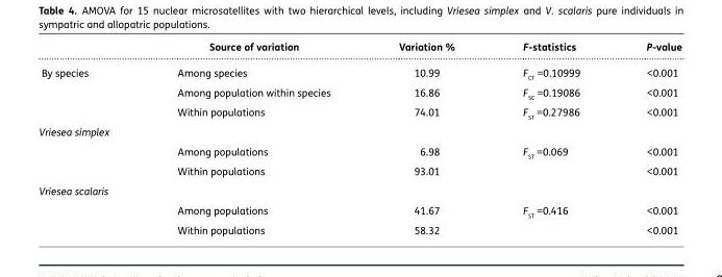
<table><thead><tr><td></td><td>Source of variation</td><td>Variation %</td><td>F-statistics</td><td>P-value</td></tr></thead><tbody><tr><td rowspan="3">By species</td><td>Among species</td><td>10.99</td><td>F<sub>CT</sub> =0.10999</td><td>&lt;0.001</td></tr><tr><td>Among population within species</td><td>16.86</td><td>F<sub>SC</sub> =0.19086</td><td>&lt;0.001</td></tr><tr><td>Within populations</td><td>74.01</td><td>F<sub>ST</sub> =0.27986</td><td>&lt;0.001</td></tr><tr><td colspan="5">Vriesea simplex</td></tr><tr><td></td><td>Among populations</td><td>6.98</td><td>F<sub>ST</sub> =0.069</td><td>&lt;0.001</td></tr><tr><td></td><td>Within populations</td><td>93.01</td><td></td><td>&lt;0.001</td></tr><tr><td colspan="5">Vriesea scalaris</td></tr><tr><td></td><td>Among populations</td><td>41.67</td><td>F<sub>ST</sub> =0.416</td><td>&lt;0.001</td></tr><tr><td></td><td>Within populations</td><td>58.32</td><td></td><td>&lt;0.001</td></tr></tbody></table>